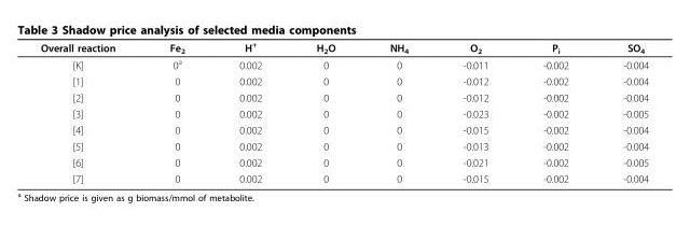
<table><thead><tr><td>Overall reaction</td><td>Fe<sub>2</sub></td><td>H<sup>+</sup></td><td>H<sub>2</sub>O</td><td>NH<sub>4</sub></td><td>O<sub>2</sub></td><td>P<sub>i</sub></td><td>SO<sub>4</sub></td></tr></thead><tbody><tr><td>[K]</td><td>0<sup>a</sup></td><td>0.002</td><td>0</td><td>0</td><td>-0.011</td><td>-0.002</td><td>-0.004</td></tr><tr><td>[1]</td><td>0</td><td>0.002</td><td>0</td><td>0</td><td>-0.012</td><td>-0.002</td><td>-0.004</td></tr><tr><td>[2]</td><td>0</td><td>0.002</td><td>0</td><td>0</td><td>-0.012</td><td>-0.002</td><td>-0.004</td></tr><tr><td>[3]</td><td>0</td><td>0.002</td><td>0</td><td>0</td><td>-0.023</td><td>-0.002</td><td>-0.005</td></tr><tr><td>[4]</td><td>0</td><td>0.002</td><td>0</td><td>0</td><td>-0.015</td><td>-0.002</td><td>-0.004</td></tr><tr><td>[5]</td><td>0</td><td>0.002</td><td>0</td><td>0</td><td>-0.013</td><td>-0.002</td><td>-0.004</td></tr><tr><td>[6]</td><td>0</td><td>0.002</td><td>0</td><td>0</td><td>-0.021</td><td>-0.002</td><td>-0.005</td></tr><tr><td>[7]</td><td>0</td><td>0.002</td><td>0</td><td>0</td><td>-0.015</td><td>-0.002</td><td>-0.004</td></tr></tbody></table>